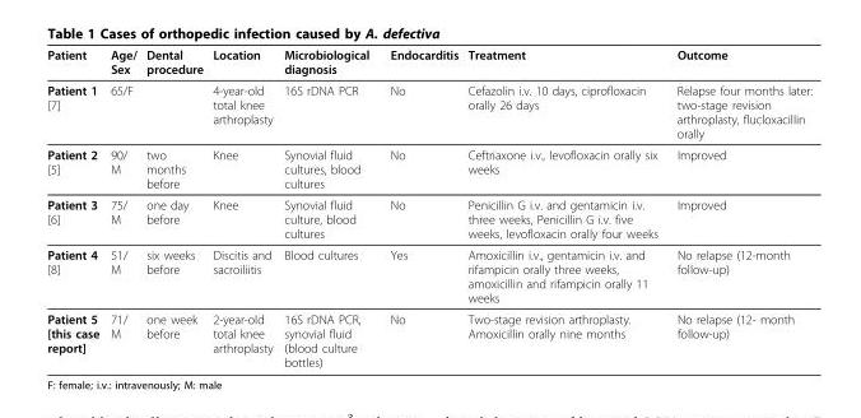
<table><thead><tr><td>Patient</td><td>Age/ Sex</td><td>Dental procedure</td><td>Location</td><td>Microbiological diagnosis</td><td>Endocarditis</td><td>Treatment</td><td>Outcome</td></tr></thead><tbody><tr><td>Patient 1 [7]</td><td>65/F</td><td></td><td>4-year-old total knee arthroplasty</td><td>16S rDNA PCR</td><td>No</td><td>Cefazolin i.v. 10 days, ciprofloxacin orally 26 days</td><td>Relapse four months later: two-stage revision arthroplasty, flucloxacillin orally</td></tr><tr><td>Patient 2 [5]</td><td>90/ M</td><td>two months before</td><td>Knee</td><td>Synovial fluid cultures, blood cultures</td><td>No</td><td>Ceftriaxone i.v., levofloxacin orally six weeks</td><td>Improved</td></tr><tr><td>Patient 3 [6]</td><td>75/ M</td><td>one day before</td><td>Knee</td><td>Synovial fluid culture, blood cultures</td><td>No</td><td>Penicillin G i.v. and gentamicin i.v. three weeks, Penicillin G i.v. five weeks, levofloxacin orally four weeks</td><td>Improved</td></tr><tr><td>Patient 4 [8]</td><td>51/ M</td><td>six weeks before</td><td>Discitis and sacroiliitis</td><td>Blood cultures</td><td>Yes</td><td>Amoxicillin i.v., gentamicin i.v. and rifampicin orally three weeks, amoxicillin and rifampicin orally 11 weeks</td><td>No relapse (12-month follow-up)</td></tr><tr><td>Patient 5 [this case report]</td><td>71/ M</td><td>one week before</td><td>2-year-old total knee arthroplasty</td><td>16S rDNA PCR, synovial fluid (blood culture bottles)</td><td>No</td><td>Two-stage revision arthroplasty. Amoxicillin orally nine months</td><td>No relapse (12- month follow-up)</td></tr></tbody></table>